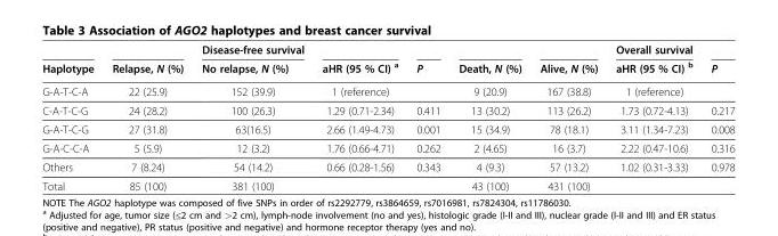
<table><thead><tr><td rowspan="2">Haplotype</td><td rowspan="2">Relapse, N (%)</td><td rowspan="2">Disease-free survival No relapse, N (%)</td><td rowspan="2">aHR (95 % CI) <sup>a</sup></td><td rowspan="2">P</td><td rowspan="2">Death, N (%)</td><td rowspan="2">Alive, N (%)</td><td rowspan="2">Overall survival aHR (95 % CI) <sup>b</sup></td><td rowspan="2">P</td></tr><tr></tr></thead><tbody><tr><td>G-A-T-C-A</td><td>22 (25.9)</td><td>152 (39.9)</td><td>1 (reference)</td><td></td><td>9 (20.9)</td><td>167 (38.8)</td><td>1 (reference)</td><td></td></tr><tr><td>C-A-T-C-G</td><td>24 (28.2)</td><td>100 (26.3)</td><td>1.29 (0.71-2.34)</td><td>0.411</td><td>13 (30.2)</td><td>113 (26.2)</td><td>1.73 (0.72-4.13)</td><td>0.217</td></tr><tr><td>G-A-T-C-G</td><td>27 (31.8)</td><td>63(16.5)</td><td>2.66 (1.49-4.73)</td><td>0.001</td><td>15 (34.9)</td><td>78 (18.1)</td><td>3.11 (1.34-7.23)</td><td>0.008</td></tr><tr><td>G-A-C-C-A</td><td>5 (5.9)</td><td>12 (3.2)</td><td>1.76 (0.66-4.71)</td><td>0.262</td><td>2 (4.65)</td><td>16 (3.7)</td><td>2.22 (0.47-10.6)</td><td>0.316</td></tr><tr><td>Others</td><td>7 (8.24)</td><td>54 (14.2)</td><td>0.66 (0.28-1.56)</td><td>0.343</td><td>4 (9.3)</td><td>57 (13.2)</td><td>1.02 (0.31-3.33)</td><td>0.978</td></tr><tr><td>Total</td><td>85 (100)</td><td>381 (100)</td><td></td><td></td><td>43 (100)</td><td>431 (100)</td><td></td><td></td></tr></tbody></table>